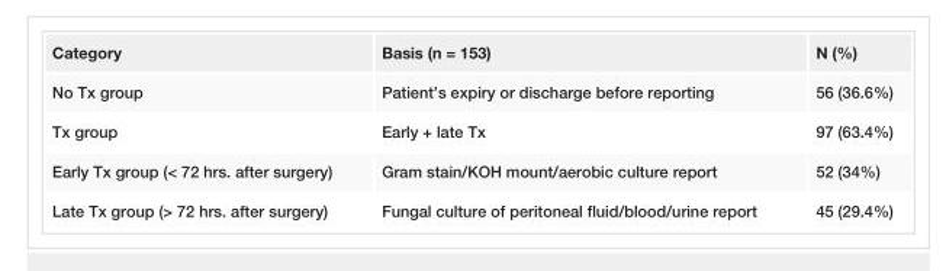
<table><tbody><tr><td>Category</td><td>Basis (n = 153)</td><td>N (%)</td></tr><tr><td>No Tx group</td><td>Patient’s expiry or discharge before reporting</td><td>56 (36.6%)</td></tr><tr><td>Tx group</td><td>Early + late Tx</td><td>97 (63.4%)</td></tr><tr><td>Early Tx group (&lt; 72 hrs. after surgery)</td><td>Gram stain/KOH mount/aerobic culture report</td><td>52 (34%)</td></tr><tr><td>Late Tx group (&gt; 72 hrs. after surgery)</td><td>Fungal culture of peritoneal fluid/blood/urine report</td><td>45 (29.4%)</td></tr></tbody></table>